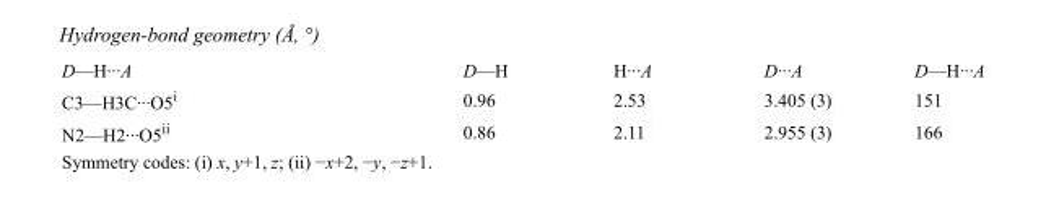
<table><tbody><tr><td>D—H···A</td><td>D—H</td><td>H···A</td><td>D···A</td><td>D—H···A</td></tr><tr><td>C3—H3C···O5<sup>i</sup></td><td>0.96</td><td>2.53</td><td>3.405 (3)</td><td>151</td></tr><tr><td>N2—H2···O5<sup>ii</sup></td><td>0.86</td><td>2.11</td><td>2.955 (3)</td><td>166</td></tr></tbody></table>